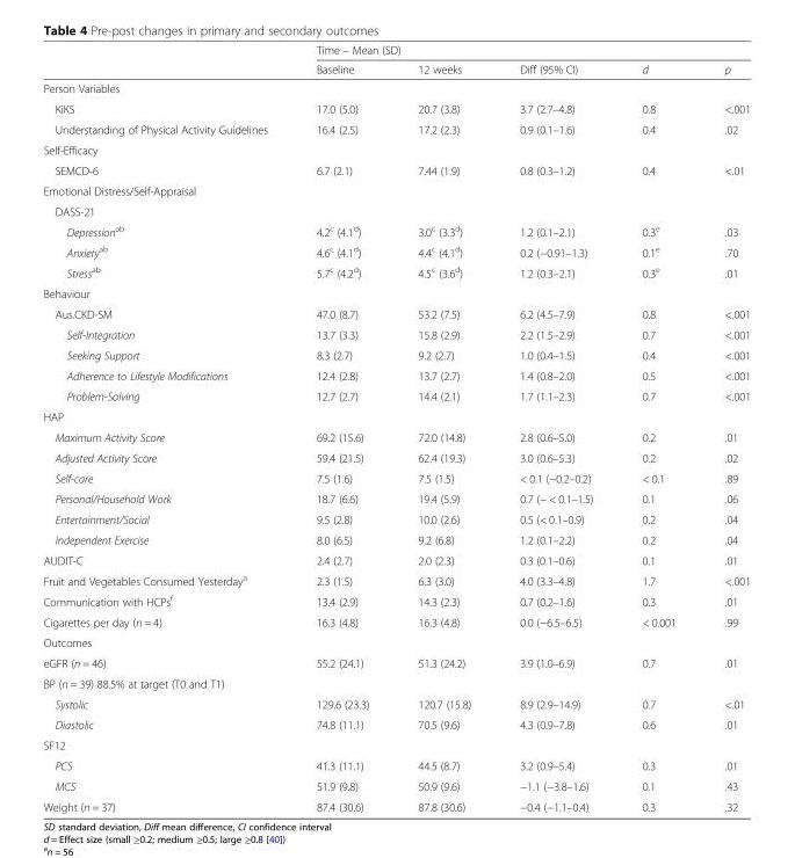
<table><thead><tr><td rowspan="2"></td><td colspan="5">Time – Mean (SD)</td></tr><tr><td>Baseline</td><td>12 weeks</td><td>Diff (95% CI)</td><td>d</td><td>p</td></tr></thead><tbody><tr><td colspan="6">Person Variables</td></tr><tr><td>KiKS</td><td>17.0 (5.0)</td><td>20.7 (3.8)</td><td>3.7 (2.7–4.8)</td><td>0.8</td><td>&lt;.001</td></tr><tr><td>Understanding of Physical Activity Guidelines</td><td>16.4 (2.5)</td><td>17.2 (2.3)</td><td>0.9 (0.1–1.6)</td><td>0.4</td><td>.02</td></tr><tr><td colspan="6">Self-Efficacy</td></tr><tr><td>SEMCD-6</td><td>6.7 (2.1)</td><td>7.44 (1.9)</td><td>0.8 (0.3–1.2)</td><td>0.4</td><td>&lt;.01</td></tr><tr><td colspan="6">Emotional Distress/Self-Appraisal</td></tr><tr><td colspan="6">DASS-21</td></tr><tr><td>Depression<sup>ab</sup></td><td>4.2<sup>c</sup> (4.1<sup>d</sup>)</td><td>3.0<sup>c</sup> (3.3<sup>d</sup>)</td><td>1.2 (0.1–2.1)</td><td>0.3<sup>e</sup></td><td>.03</td></tr><tr><td>Anxiety<sup>ab</sup></td><td>4.6<sup>c</sup> (4.1<sup>d</sup>)</td><td>4.4<sup>c</sup> (4.1<sup>d</sup>)</td><td>0.2 (−0.91–1.3)</td><td>0.1<sup>e</sup></td><td>.70</td></tr><tr><td>Stress<sup>ab</sup></td><td>5.7<sup>c</sup> (4.2<sup>d</sup>)</td><td>4.5<sup>c</sup> (3.6<sup>d</sup>)</td><td>1.2 (0.3–2.1)</td><td>0.3<sup>e</sup></td><td>.01</td></tr><tr><td colspan="6">Behaviour</td></tr><tr><td>Aus.CKD-SM</td><td>47.0 (8.7)</td><td>53.2 (7.5)</td><td>6.2 (4.5–7.9)</td><td>0.8</td><td>&lt;.001</td></tr><tr><td>Self-Integration</td><td>13.7 (3.3)</td><td>15.8 (2.9)</td><td>2.2 (1.5–2.9)</td><td>0.7</td><td>&lt;.001</td></tr><tr><td>Seeking Support</td><td>8.3 (2.7)</td><td>9.2 (2.7)</td><td>1.0 (0.4–1.5)</td><td>0.4</td><td>&lt;.001</td></tr><tr><td>Adherence to Lifestyle Modifications</td><td>12.4 (2.8)</td><td>13.7 (2.7)</td><td>1.4 (0.8–2.0)</td><td>0.5</td><td>&lt;.001</td></tr><tr><td>Problem-Solving</td><td>12.7 (2.7)</td><td>14.4 (2.1)</td><td>1.7 (1.1–2.3)</td><td>0.7</td><td>&lt;.001</td></tr><tr><td colspan="6">HAP</td></tr><tr><td>Maximum Activity Score</td><td>69.2 (15.6)</td><td>72.0 (14.8)</td><td>2.8 (0.6–5.0)</td><td>0.2</td><td>.01</td></tr><tr><td>Adjusted Activity Score</td><td>59.4 (21.5)</td><td>62.4 (19.3)</td><td>3.0 (0.6–5.3)</td><td>0.2</td><td>.02</td></tr><tr><td>Self-care</td><td>7.5 (1.6)</td><td>7.5 (1.5)</td><td>&lt; 0.1 (−0.2–0.2)</td><td>&lt; 0.1</td><td>.89</td></tr><tr><td>Personal/Household Work</td><td>18.7 (6.6)</td><td>19.4 (5.9)</td><td>0.7 (− &lt; 0.1–1.5)</td><td>0.1</td><td>.06</td></tr><tr><td>Entertainment/Social</td><td>9.5 (2.8)</td><td>10.0 (2.6)</td><td>0.5 (&lt; 0.1–0.9)</td><td>0.2</td><td>.04</td></tr><tr><td>Independent Exercise</td><td>8.0 (6.5)</td><td>9.2 (6.8)</td><td>1.2 (0.1–2.2)</td><td>0.2</td><td>.04</td></tr><tr><td>AUDIT-C</td><td>2.4 (2.7)</td><td>2.0 (2.3)</td><td>0.3 (0.1–0.6)</td><td>0.1</td><td>.01</td></tr><tr><td>Fruit and Vegetables Consumed Yesterday<sup>a</sup></td><td>2.3 (1.5)</td><td>6.3 (3.0)</td><td>4.0 (3.3–4.8)</td><td>1.7</td><td>&lt;.001</td></tr><tr><td>Communication with HCPs<sup>f</sup></td><td>13.4 (2.9)</td><td>14.3 (2.3)</td><td>0.7 (0.2–1.6)</td><td>0.3</td><td>.01</td></tr><tr><td>Cigarettes per day (n = 4)</td><td>16.3 (4.8)</td><td>16.3 (4.8)</td><td>0.0 (−6.5–6.5)</td><td>&lt; 0.001</td><td>.99</td></tr><tr><td colspan="6">Outcomes</td></tr><tr><td>eGFR (n = 46)</td><td>55.2 (24.1)</td><td>51.3 (24.2)</td><td>3.9 (1.0–6.9)</td><td>0.7</td><td>.01</td></tr><tr><td colspan="6">BP (n = 39) 88.5% at target (T0 and T1)</td></tr><tr><td>Systolic</td><td>129.6 (23.3)</td><td>120.7 (15.8)</td><td>8.9 (2.9–14.9)</td><td>0.7</td><td>&lt;.01</td></tr><tr><td>Diastolic</td><td>74.8 (11.1)</td><td>70.5 (9.6)</td><td>4.3 (0.9–7.8)</td><td>0.6</td><td>.01</td></tr><tr><td colspan="6">SF12</td></tr><tr><td>PCS</td><td>41.3 (11.1)</td><td>44.5 (8.7)</td><td>3.2 (0.9–5.4)</td><td>0.3</td><td>.01</td></tr><tr><td>MCS</td><td>51.9 (9.8)</td><td>50.9 (9.6)</td><td>−1.1 (−3.8–1.6)</td><td>0.1</td><td>.43</td></tr><tr><td>Weight (n = 37)</td><td>87.4 (30.6)</td><td>87.8 (30.6)</td><td>−0.4 (−1.1–0.4)</td><td>0.3</td><td>.32</td></tr></tbody></table>